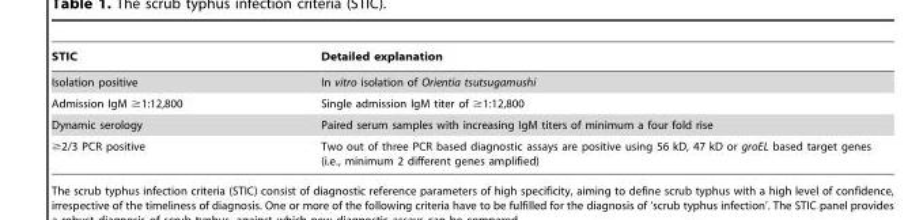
<table><thead><tr><td>STIC</td><td>Detailed explanation</td></tr></thead><tbody><tr><td>Isolation positive</td><td>In vitro isolation of Orientia tsutsugamushi</td></tr><tr><td>Admission IgM ≥1:12,800</td><td>Single admission IgM titer of ≥1:12,800</td></tr><tr><td>Dynamic serology</td><td>Paired serum samples with increasing IgM titers of minimum a four fold rise</td></tr><tr><td>≥2/3 PCR positive</td><td>Two out of three PCR based diagnostic assays are positive using 56 kD, 47 kD or groEL based target genes (i.e., minimum 2 different genes amplified)</td></tr></tbody></table>